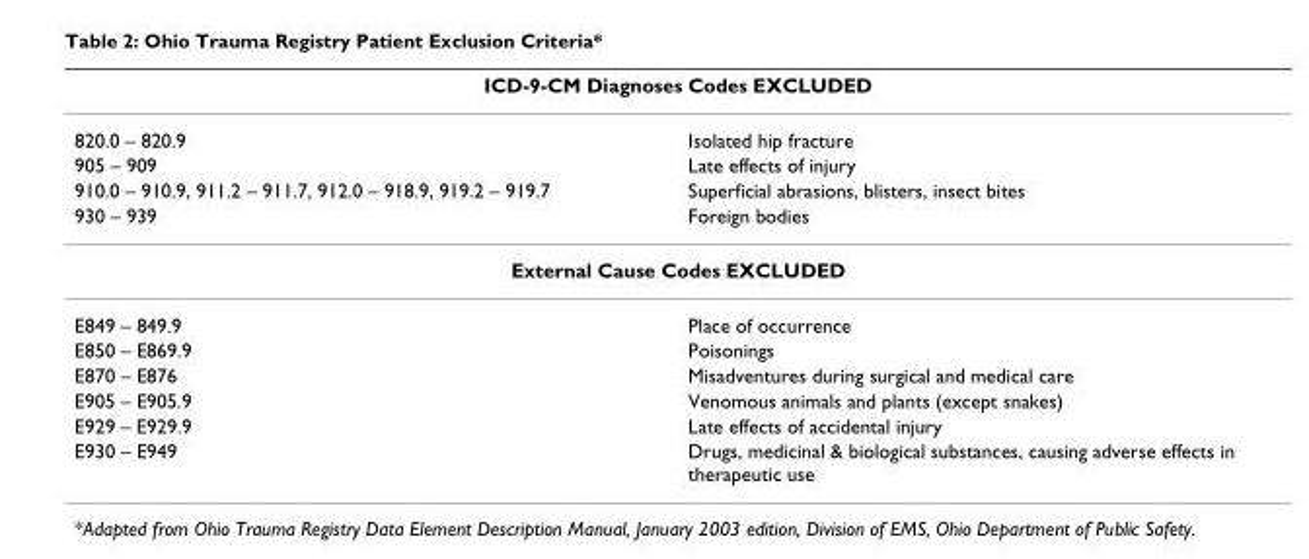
<table><thead><tr><td colspan="2">ICD-9-CM Diagnoses Codes EXCLUDED</td></tr><tr><td>820.0 – 820.9</td><td>Isolated hip fracture</td></tr></thead><tbody><tr><td>905 – 909</td><td>Late effects of injury</td></tr><tr><td>910.0 – 910.9, 911.2 – 911.7, 912.0 – 918.9, 919.2 – 919.7</td><td>Superficial abrasions, blisters, insect bites</td></tr><tr><td>930 – 939</td><td>Foreign bodies</td></tr><tr><td colspan="2">External Cause Codes EXCLUDED</td></tr><tr><td>E849 – 849.9</td><td>Place of occurrence</td></tr><tr><td>E850 – E869.9</td><td>Poisonings</td></tr><tr><td>E870 – E876</td><td>Misadventures during surgical and medical care</td></tr><tr><td>E905 – E905.9</td><td>Venomous animals and plants (except snakes)</td></tr><tr><td>E929 – E929.9</td><td>Late effects of accidental injury</td></tr><tr><td>E930 – E949</td><td>Drugs, medicinal &amp; biological substances, causing adverse effects in therapeutic use</td></tr></tbody></table>